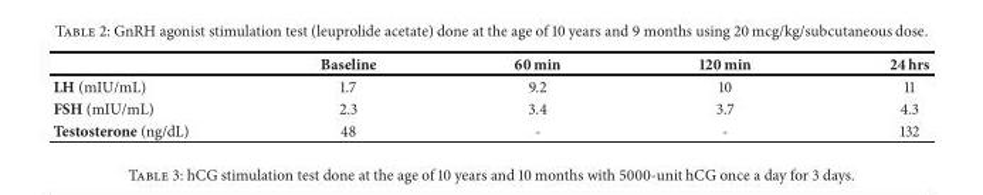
<table><thead><tr><td></td><td>Baseline</td><td>60 min</td><td>120 min</td><td>24 hrs</td></tr></thead><tbody><tr><td>LH (mIU/mL)</td><td>1.7</td><td>9.2</td><td>10</td><td>11</td></tr><tr><td>FSH (mIU/mL)</td><td>2.3</td><td>3.4</td><td>3.7</td><td>4.3</td></tr><tr><td>Testosterone (ng/dL)</td><td>48</td><td>-</td><td>-</td><td>132</td></tr></tbody></table>